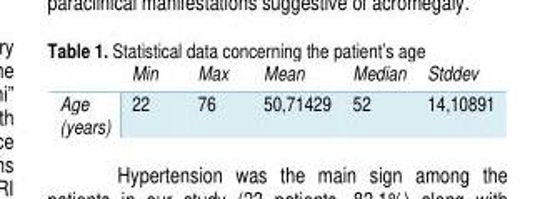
<table><thead><tr><td></td><td>Min</td><td>Max</td><td>Mean</td><td>Median</td><td>Stddev</td></tr></thead><tbody><tr><td>Age (years)</td><td>22</td><td>76</td><td>50,71429</td><td>52</td><td>14,10891</td></tr></tbody></table>